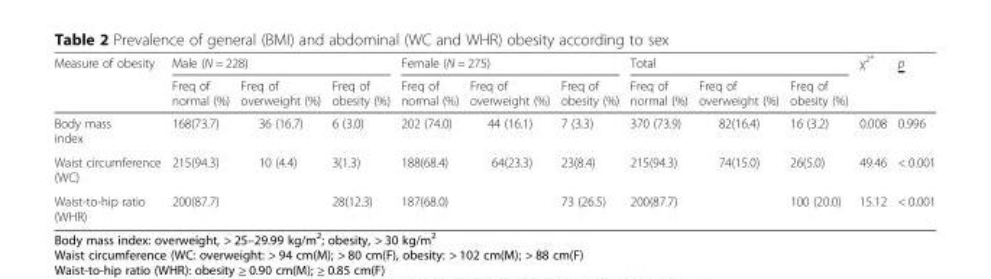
<table><thead><tr><td rowspan="2">Measure of obesity</td><td colspan="3">Male (N = 228)</td><td colspan="3">Female (N = 275)</td><td colspan="3">Total</td><td rowspan="2">χ<sup>2*</sup></td><td rowspan="2">p</td></tr><tr><td>Freq of normal (%)</td><td>Freq of overweight (%)</td><td>Freq of obesity (%)</td><td>Freq of normal (%)</td><td>Freq of overweight (%)</td><td>Freq of obesity (%)</td><td>Freq of normal (%)</td><td>Freq of overweight (%)</td><td>Freq of obesity (%)</td></tr></thead><tbody><tr><td>Body mass index</td><td>168(73.7)</td><td>36 (16.7)</td><td>6 (3.0)</td><td>202 (74.0)</td><td>44 (16.1)</td><td>7 (3.3)</td><td>370 (73.9)</td><td>82(16.4)</td><td>16 (3.2)</td><td>0.008</td><td>0.996</td></tr><tr><td>Waist circumference (WC)</td><td>215(94.3)</td><td>10 (4.4)</td><td>3(1.3)</td><td>188(68.4)</td><td>64(23.3)</td><td>23(8.4)</td><td>215(94.3)</td><td>74(15.0)</td><td>26(5.0)</td><td>49.46</td><td>&lt; 0.001</td></tr><tr><td>Waist-to-hip ratio (WHR)</td><td>200(87.7)</td><td></td><td>28(12.3)</td><td>187(68.0)</td><td></td><td>73 (26.5)</td><td>200(87.7)</td><td></td><td>100 (20.0)</td><td>15.12</td><td>&lt; 0.001</td></tr></tbody></table>